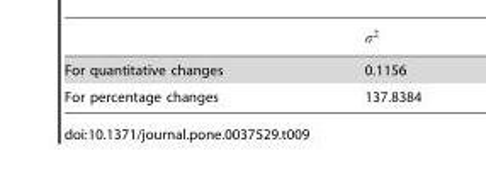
<table><tbody><tr><td>For quantitative changes</td><td>0.1156</td></tr><tr><td>For percentage changes</td><td>137.8384</td></tr></tbody></table>